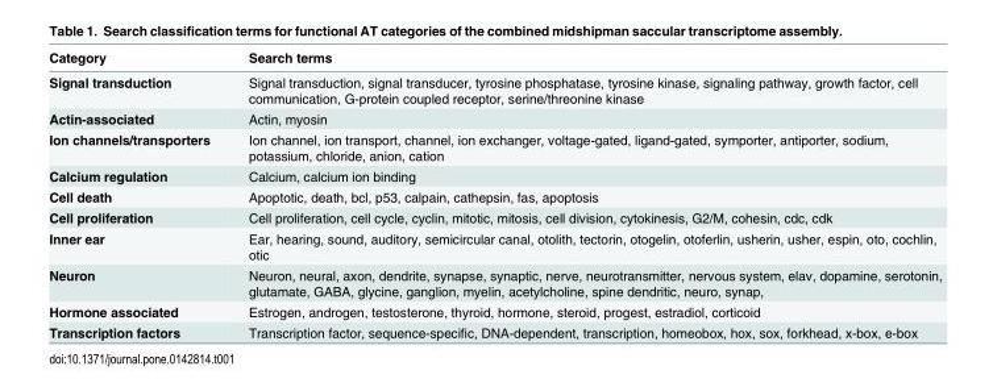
<table><thead><tr><td>Category</td><td>Search terms</td></tr></thead><tbody><tr><td>Signal transduction</td><td>Signal transduction, signal transducer, tyrosine phosphatase, tyrosine kinase, signaling pathway, growth factor, cell communication, G-protein coupled receptor, serine/threonine kinase</td></tr><tr><td>Actin-associated</td><td>Actin, myosin</td></tr><tr><td>Ion channels/transporters</td><td>Ion channel, ion transport, channel, ion exchanger, voltage-gated, ligand-gated, symporter, antiporter, sodium, potassium, chloride, anion, cation</td></tr><tr><td>Calcium regulation</td><td>Calcium, calcium ion binding</td></tr><tr><td>Cell death</td><td>Apoptotic, death, bcl, p53, calpain, cathepsin, fas, apoptosis</td></tr><tr><td>Cell proliferation</td><td>Cell proliferation, cell cycle, cyclin, mitotic, mitosis, cell division, cytokinesis, G2/M, cohesin, cdc, cdk</td></tr><tr><td>Inner ear</td><td>Ear, hearing, sound, auditory, semicircular canal, otolith, tectorin, otogelin, otoferlin, usherin, usher, espin, oto, cochlin, otic</td></tr><tr><td>Neuron</td><td>Neuron, neural, axon, dendrite, synapse, synaptic, nerve, neurotransmitter, nervous system, elav, dopamine, serotonin, glutamate, GABA, glycine, ganglion, myelin, acetylcholine, spine dendritic, neuro, synap,</td></tr><tr><td>Hormone associated</td><td>Estrogen, androgen, testosterone, thyroid, hormone, steroid, progest, estradiol, corticoid</td></tr><tr><td>Transcription factors</td><td>Transcription factor, sequence-specific, DNA-dependent, transcription, homeobox, hox, sox, forkhead, x-box, e-box</td></tr></tbody></table>